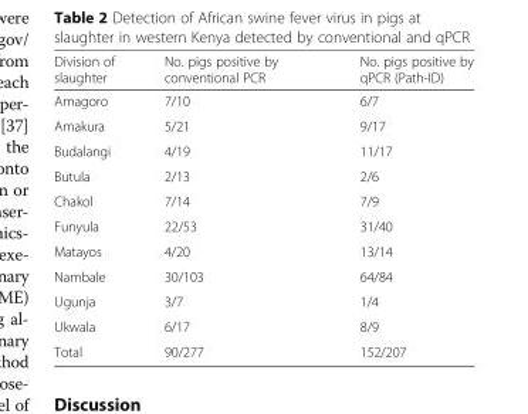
<table><thead><tr><td>Division of slaughter</td><td>No. pigs positive by conventional PCR</td><td>No. pigs positive by qPCR (Path-ID)</td></tr></thead><tbody><tr><td>Amagoro</td><td>7/10</td><td>6/7</td></tr><tr><td>Amakura</td><td>5/21</td><td>9/17</td></tr><tr><td>Budalangi</td><td>4/19</td><td>11/17</td></tr><tr><td>Butula</td><td>2/13</td><td>2/6</td></tr><tr><td>Chakol</td><td>7/14</td><td>7/9</td></tr><tr><td>Funyula</td><td>22/53</td><td>31/40</td></tr><tr><td>Matayos</td><td>4/20</td><td>13/14</td></tr><tr><td>Nambale</td><td>30/103</td><td>64/84</td></tr><tr><td>Ugunja</td><td>3/7</td><td>1/4</td></tr><tr><td>Ukwala</td><td>6/17</td><td>8/9</td></tr><tr><td>Total</td><td>90/277</td><td>152/207</td></tr></tbody></table>